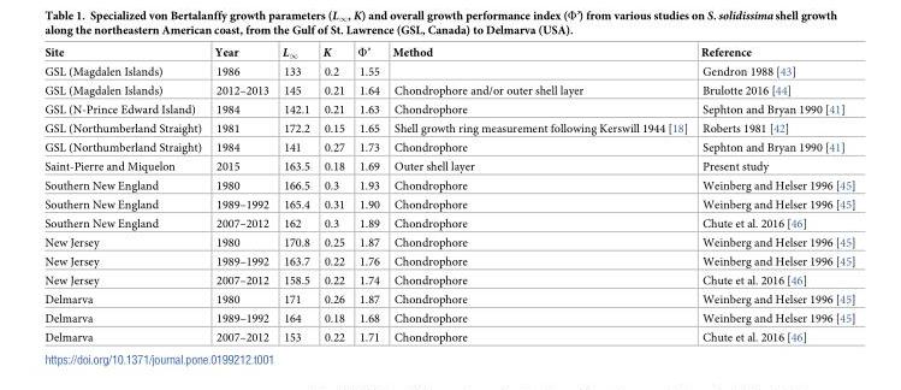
<table><thead><tr><td>Site</td><td>Year</td><td>L<sub>∞</sub></td><td>K</td><td>F’</td><td>Method</td><td>Reference</td></tr></thead><tbody><tr><td>GSL (Magdalen Islands)</td><td>1986</td><td>133</td><td>0.2</td><td>1.55</td><td></td><td>Gendron 1988 [43]</td></tr><tr><td>GSL (Magdalen Islands)</td><td>2012–2013</td><td>145</td><td>0.21</td><td>1.64</td><td>Chondrophore and/or outer shell layer</td><td>Brulotte 2016 [44]</td></tr><tr><td>GSL (N-Prince Edward Island)</td><td>1984</td><td>142.1</td><td>0.21</td><td>1.63</td><td>Chondrophore</td><td>Sephton and Bryan 1990 [41]</td></tr><tr><td>GSL (Northumberland Straight)</td><td>1981</td><td>172.2</td><td>0.15</td><td>1.65</td><td>Shell growth ring measurement following Kerswill 1944 [18]</td><td>Roberts 1981 [42]</td></tr><tr><td>GSL (Northumberland Straight)</td><td>1984</td><td>141</td><td>0.27</td><td>1.73</td><td>Chondrophore</td><td>Sephton and Bryan 1990 [41]</td></tr><tr><td>Saint-Pierre and Miquelon</td><td>2015</td><td>163.5</td><td>0.18</td><td>1.69</td><td>Outer shell layer</td><td>Present study</td></tr><tr><td>Southern New England</td><td>1980</td><td>166.5</td><td>0.3</td><td>1.93</td><td>Chondrophore</td><td>Weinberg and Helser 1996 [45]</td></tr><tr><td>Southern New England</td><td>1989–1992</td><td>165.4</td><td>0.31</td><td>1.90</td><td>Chondrophore</td><td>Weinberg and Helser 1996 [45]</td></tr><tr><td>Southern New England</td><td>2007–2012</td><td>162</td><td>0.3</td><td>1.89</td><td>Chondrophore</td><td>Chute et al. 2016 [46]</td></tr><tr><td>New Jersey</td><td>1980</td><td>170.8</td><td>0.25</td><td>1.87</td><td>Chondrophore</td><td>Weinberg and Helser 1996 [45]</td></tr><tr><td>New Jersey</td><td>1989–1992</td><td>163.7</td><td>0.22</td><td>1.76</td><td>Chondrophore</td><td>Weinberg and Helser 1996 [45]</td></tr><tr><td>New Jersey</td><td>2007–2012</td><td>158.5</td><td>0.22</td><td>1.74</td><td>Chondrophore</td><td>Chute et al. 2016 [46]</td></tr><tr><td>Delmarva</td><td>1980</td><td>171</td><td>0.26</td><td>1.87</td><td>Chondrophore</td><td>Weinberg and Helser 1996 [45]</td></tr><tr><td>Delmarva</td><td>1989–1992</td><td>164</td><td>0.18</td><td>1.68</td><td>Chondrophore</td><td>Weinberg and Helser 1996 [45]</td></tr><tr><td>Delmarva</td><td>2007–2012</td><td>153</td><td>0.22</td><td>1.71</td><td>Chondrophore</td><td>Chute et al. 2016 [46]</td></tr></tbody></table>